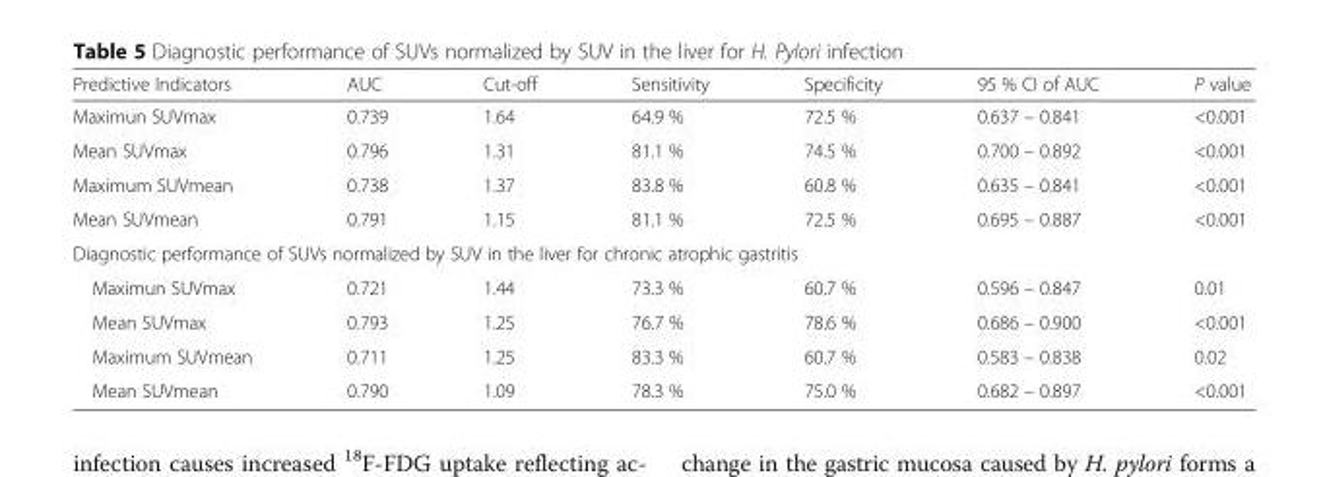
<table><thead><tr><td>Predictive Indicators</td><td>AUC</td><td>Cut-off</td><td>Sensitivity</td><td>Specificity</td><td>95 % CI of AUC</td><td>P value</td></tr></thead><tbody><tr><td>Maximun SUVmax</td><td>0.739</td><td>1.64</td><td>64.9 %</td><td>72.5 %</td><td>0.637 – 0.841</td><td>&lt;0.001</td></tr><tr><td>Mean SUVmax</td><td>0.796</td><td>1.31</td><td>81.1 %</td><td>74.5 %</td><td>0.700 – 0.892</td><td>&lt;0.001</td></tr><tr><td>Maximum SUVmean</td><td>0.738</td><td>1.37</td><td>83.8 %</td><td>60.8 %</td><td>0.635 – 0.841</td><td>&lt;0.001</td></tr><tr><td>Mean SUVmean</td><td>0.791</td><td>1.15</td><td>81.1 %</td><td>72.5 %</td><td>0.695 – 0.887</td><td>&lt;0.001</td></tr><tr><td colspan="7">Diagnostic performance of SUVs normalized by SUV in the liver for chronic atrophic gastritis</td></tr><tr><td>Maximun SUVmax</td><td>0.721</td><td>1.44</td><td>73.3 %</td><td>60.7 %</td><td>0.596 – 0.847</td><td>0.01</td></tr><tr><td>Mean SUVmax</td><td>0.793</td><td>1.25</td><td>76.7 %</td><td>78.6 %</td><td>0.686 – 0.900</td><td>&lt;0.001</td></tr><tr><td>Maximum SUVmean</td><td>0.711</td><td>1.25</td><td>83.3 %</td><td>60.7 %</td><td>0.583 – 0.838</td><td>0.02</td></tr><tr><td>Mean SUVmean</td><td>0.790</td><td>1.09</td><td>78.3 %</td><td>75.0 %</td><td>0.682 – 0.897</td><td>&lt;0.001</td></tr></tbody></table>